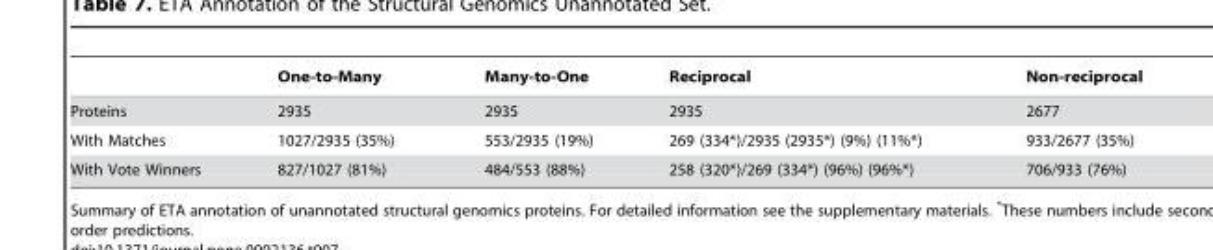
<table><thead><tr><td></td><td>One-to-Many</td><td>Many-to-One</td><td>Reciprocal</td><td>Non-reciprocal</td></tr></thead><tbody><tr><td>Proteins</td><td>2935</td><td>2935</td><td>2935</td><td>2677</td></tr><tr><td>With Matches</td><td>1027/2935 (35%)</td><td>553/2935 (19%)</td><td>269 (334*)/2935 (2935*) (9%) (11%*)</td><td>933/2677 (35%)</td></tr><tr><td>With Vote Winners</td><td>827/1027 (81%)</td><td>484/553 (88%)</td><td>258 (320*)/269 (334*) (96%) (96%*)</td><td>706/933 (76%)</td></tr></tbody></table>